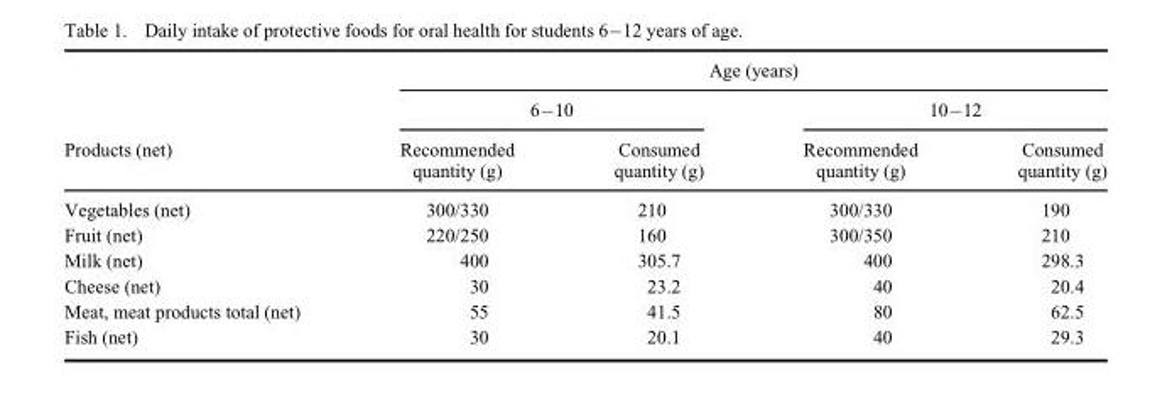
<table><thead><tr><td rowspan="3">Products (net)</td><td colspan="4">Age (years)</td></tr><tr><td colspan="2">6–10</td><td colspan="2">10–12</td></tr><tr><td>Recommended quantity (g)</td><td>Consumed quantity (g)</td><td>Recommended quantity (g)</td><td>Consumed quantity (g)</td></tr></thead><tbody><tr><td>Vegetables (net)</td><td>300/330</td><td>210</td><td>300/330</td><td>190</td></tr><tr><td>Fruit (net)</td><td>220/250</td><td>160</td><td>300/350</td><td>210</td></tr><tr><td>Milk (net)</td><td>400</td><td>305.7</td><td>400</td><td>298.3</td></tr><tr><td>Cheese (net)</td><td>30</td><td>23.2</td><td>40</td><td>20.4</td></tr><tr><td>Meat, meat products total (net)</td><td>55</td><td>41.5</td><td>80</td><td>62.5</td></tr><tr><td>Fish (net)</td><td>30</td><td>20.1</td><td>40</td><td>29.3</td></tr></tbody></table>